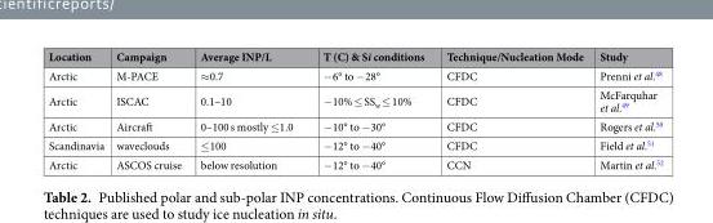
<table><thead><tr><td>Location</td><td>Campaign</td><td>Average INP/L</td><td>T (C) &amp; Si conditions</td><td>Technique/Nucleation Mode</td><td>Study</td></tr></thead><tbody><tr><td>Arctic</td><td>M-PACE</td><td>≈0.7</td><td>−6° to −28°</td><td>CFDC</td><td>Prenni et al.<sup>48</sup></td></tr><tr><td>Arctic</td><td>ISCAC</td><td>0.1–10</td><td>−10% ≤ SS<sub>w</sub> ≤ 10%</td><td>CFDC</td><td>McFarquhar et al.<sup>49</sup></td></tr><tr><td>Arctic</td><td>Aircraft</td><td>0–100 s mostly ≤1.0</td><td>−10° to −30°</td><td>CFDC</td><td>Rogers et al.<sup>50</sup></td></tr><tr><td>Scandinavia</td><td>waveclouds</td><td>≤100</td><td>−12° to −40°</td><td>CFDC</td><td>Field et al.<sup>51</sup></td></tr><tr><td>Arctic</td><td>ASCOS cruise</td><td>below resolution</td><td>−12° to −40°</td><td>CCN</td><td>Martin et al.<sup>52</sup></td></tr></tbody></table>